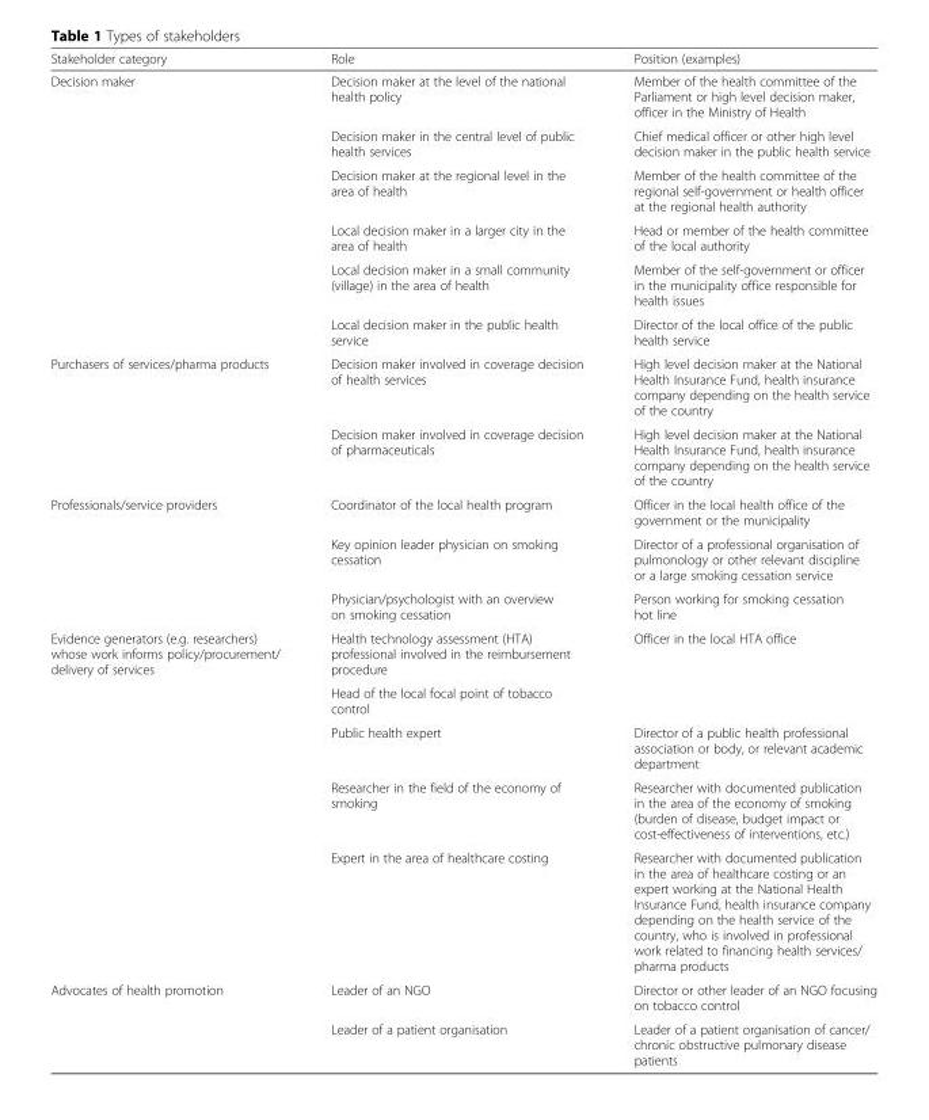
<table><thead><tr><td>Stakeholder category</td><td>Role</td><td>Position (examples)</td></tr></thead><tbody><tr><td rowspan="6">Decision maker</td><td>Decision maker at the level of the national health policy</td><td>Member of the health committee of the Parliament or high level decision maker, officer in the Ministry of Health</td></tr><tr><td>Decision maker in the central level of public health services</td><td>Chief medical officer or other high level decision maker in the public health service</td></tr><tr><td>Decision maker at the regional level in the area of health</td><td>Member of the health committee of the regional self-government or health officer at the regional health authority</td></tr><tr><td>Local decision maker in a larger city in the area of health</td><td>Head or member of the health committee of the local authority</td></tr><tr><td>Local decision maker in a small community (village) in the area of health</td><td>Member of the self-government or officer in the municipality office responsible for health issues</td></tr><tr><td>Local decision maker in the public health service</td><td>Director of the local office of the public health service</td></tr><tr><td rowspan="2">Purchasers of services/pharma products</td><td>Decision maker involved in coverage decision of health services</td><td>High level decision maker at the National Health Insurance Fund, health insurance company depending on the health service of the country</td></tr><tr><td>Decision maker involved in coverage decision of pharmaceuticals</td><td>High level decision maker at the National Health Insurance Fund, health insurance company depending on the health service of the country</td></tr><tr><td rowspan="3">Professionals/service providers</td><td>Coordinator of the local health program</td><td>Officer in the local health office of the government or the municipality</td></tr><tr><td>Key opinion leader physician on smoking cessation</td><td>Director of a professional organisation of pulmonology or other relevant discipline or a large smoking cessation service</td></tr><tr><td>Physician/psychologist with an overview on smoking cessation</td><td>Person working for smoking cessation hot line</td></tr><tr><td rowspan="5">Evidence generators (e.g. researchers) whose work informs policy/procurement/ delivery of services</td><td>Health technology assessment (HTA) professional involved in the reimbursement procedure</td><td>Officer in the local HTA office</td></tr><tr><td>Head of the local focal point of tobacco control</td><td></td></tr><tr><td>Public health expert</td><td>Director of a public health professional association or body, or relevant academic department</td></tr><tr><td>Researcher in the field of the economy of smoking</td><td>Researcher with documented publication in the area of the economy of smoking (burden of disease, budget impact or cost-effectiveness of interventions, etc.)</td></tr><tr><td>Expert in the area of healthcare costing</td><td>Researcher with documented publication in the area of healthcare costing or an expert working at the National Health Insurance Fund, health insurance company depending on the health service of the country, who is involved in professional work related to financing health services/ pharma products</td></tr><tr><td rowspan="2">Advocates of health promotion</td><td>Leader of an NGO</td><td>Director or other leader of an NGO focusing on tobacco control</td></tr><tr><td>Leader of a patient organisation</td><td>Leader of a patient organisation of cancer/ chronic obstructive pulmonary disease patients</td></tr></tbody></table>